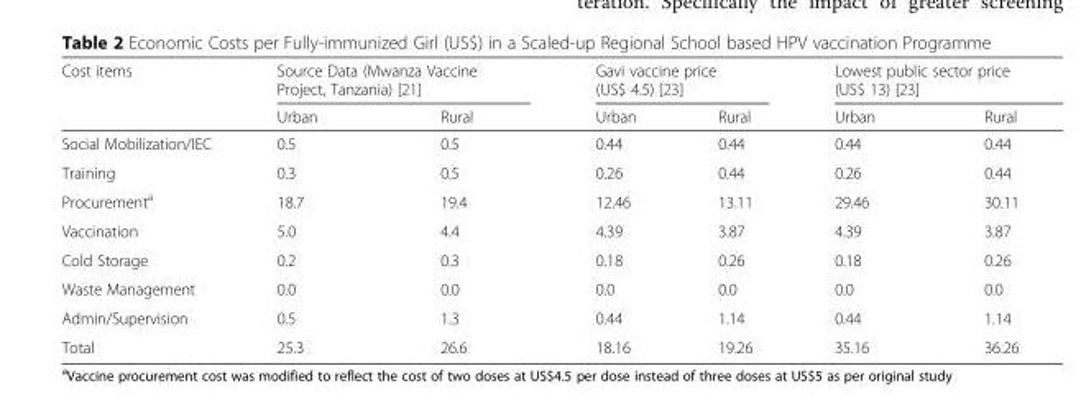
<table><thead><tr><td rowspan="2">Cost items</td><td colspan="2">Source Data (Mwanza Vaccine Project, Tanzania) [21]</td><td colspan="2">Gavi vaccine price (US$ 4.5) [23]</td><td colspan="2">Lowest public sector price (US$ 13) [23]</td></tr><tr><td>Urban</td><td>Rural</td><td>Urban</td><td>Rural</td><td>Urban</td><td>Rural</td></tr></thead><tbody><tr><td>Social Mobilization/IEC</td><td>0.5</td><td>0.5</td><td>0.44</td><td>0.44</td><td>0.44</td><td>0.44</td></tr><tr><td>Training</td><td>0.3</td><td>0.5</td><td>0.26</td><td>0.44</td><td>0.26</td><td>0.44</td></tr><tr><td>Procurement<sup>a</sup></td><td>18.7</td><td>19.4</td><td>12.46</td><td>13.11</td><td>29.46</td><td>30.11</td></tr><tr><td>Vaccination</td><td>5.0</td><td>4.4</td><td>4.39</td><td>3.87</td><td>4.39</td><td>3.87</td></tr><tr><td>Cold Storage</td><td>0.2</td><td>0.3</td><td>0.18</td><td>0.26</td><td>0.18</td><td>0.26</td></tr><tr><td>Waste Management</td><td>0.0</td><td>0.0</td><td>0.0</td><td>0.0</td><td>0.0</td><td>0.0</td></tr><tr><td>Admin/Supervision</td><td>0.5</td><td>1.3</td><td>0.44</td><td>1.14</td><td>0.44</td><td>1.14</td></tr><tr><td>Total</td><td>25.3</td><td>26.6</td><td>18.16</td><td>19.26</td><td>35.16</td><td>36.26</td></tr></tbody></table>